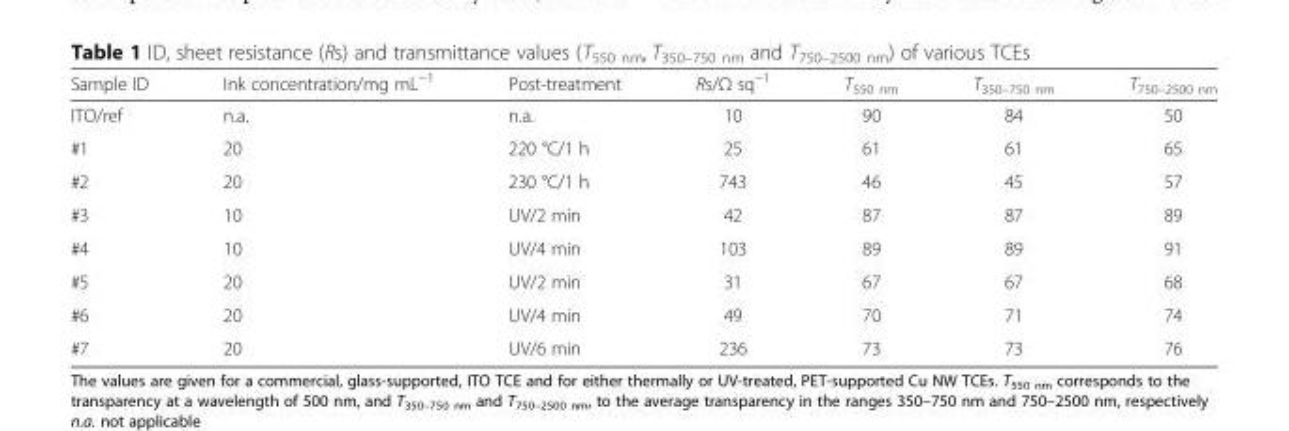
<table><thead><tr><td>Sample ID</td><td>Ink concentration/mg mL<sup>−1</sup></td><td>Post-treatment</td><td>Rs/Ω sq<sup>−1</sup></td><td>T<sub>550 nm</sub></td><td>T<sub>350–750 nm</sub></td><td>T<sub>750–2500 nm</sub></td></tr></thead><tbody><tr><td>ITO/ref</td><td>n.a.</td><td>n.a.</td><td>10</td><td>90</td><td>84</td><td>50</td></tr><tr><td>#1</td><td>20</td><td>220 °C/1 h</td><td>25</td><td>61</td><td>61</td><td>65</td></tr><tr><td>#2</td><td>20</td><td>230 °C/1 h</td><td>743</td><td>46</td><td>45</td><td>57</td></tr><tr><td>#3</td><td>10</td><td>UV/2 min</td><td>42</td><td>87</td><td>87</td><td>89</td></tr><tr><td>#4</td><td>10</td><td>UV/4 min</td><td>103</td><td>89</td><td>89</td><td>91</td></tr><tr><td>#5</td><td>20</td><td>UV/2 min</td><td>31</td><td>67</td><td>67</td><td>68</td></tr><tr><td>#6</td><td>20</td><td>UV/4 min</td><td>49</td><td>70</td><td>71</td><td>74</td></tr><tr><td>#7</td><td>20</td><td>UV/6 min</td><td>236</td><td>73</td><td>73</td><td>76</td></tr></tbody></table>